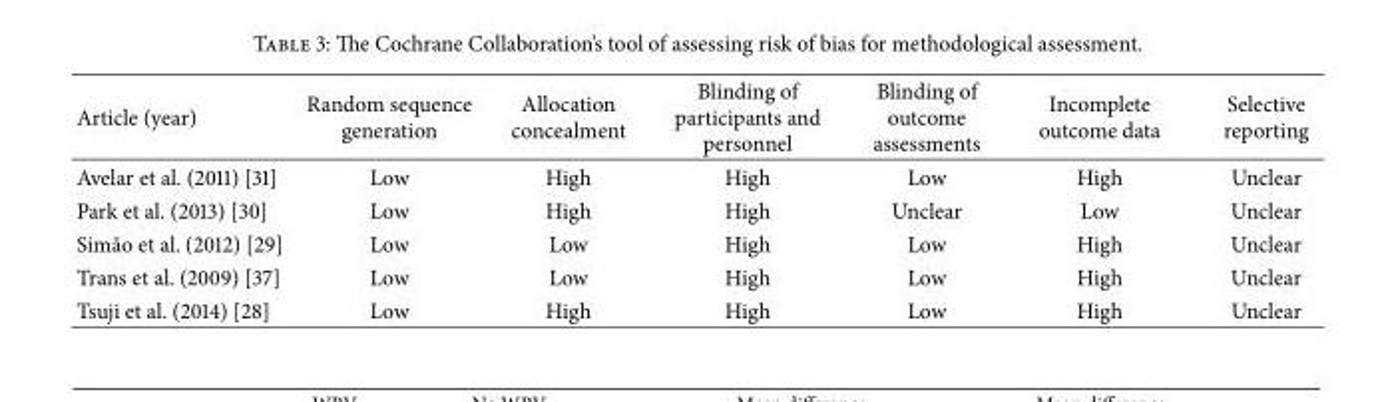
<table><thead><tr><td>Article (year)</td><td>Random sequence generation</td><td>Allocation concealment</td><td>Blinding of participants and personnel</td><td>Blinding of outcome assessments</td><td>Incomplete outcome data</td><td>Selective reporting</td></tr></thead><tbody><tr><td>Avelar et al. (2011) [31]</td><td>Low</td><td>High</td><td>High</td><td>Low</td><td>High</td><td>Unclear</td></tr><tr><td>Park et al. (2013) [30]</td><td>Low</td><td>High</td><td>High</td><td>Unclear</td><td>Low</td><td>Unclear</td></tr><tr><td>Sim˜ao et al. (2012) [29]</td><td>Low</td><td>Low</td><td>High</td><td>Low</td><td>High</td><td>Unclear</td></tr><tr><td>Trans et al. (2009) [37]</td><td>Low</td><td>Low</td><td>High</td><td>Low</td><td>High</td><td>Unclear</td></tr><tr><td>Tsuji et al. (2014) [28]</td><td>Low</td><td>High</td><td>High</td><td>Low</td><td>High</td><td>Unclear</td></tr></tbody></table>